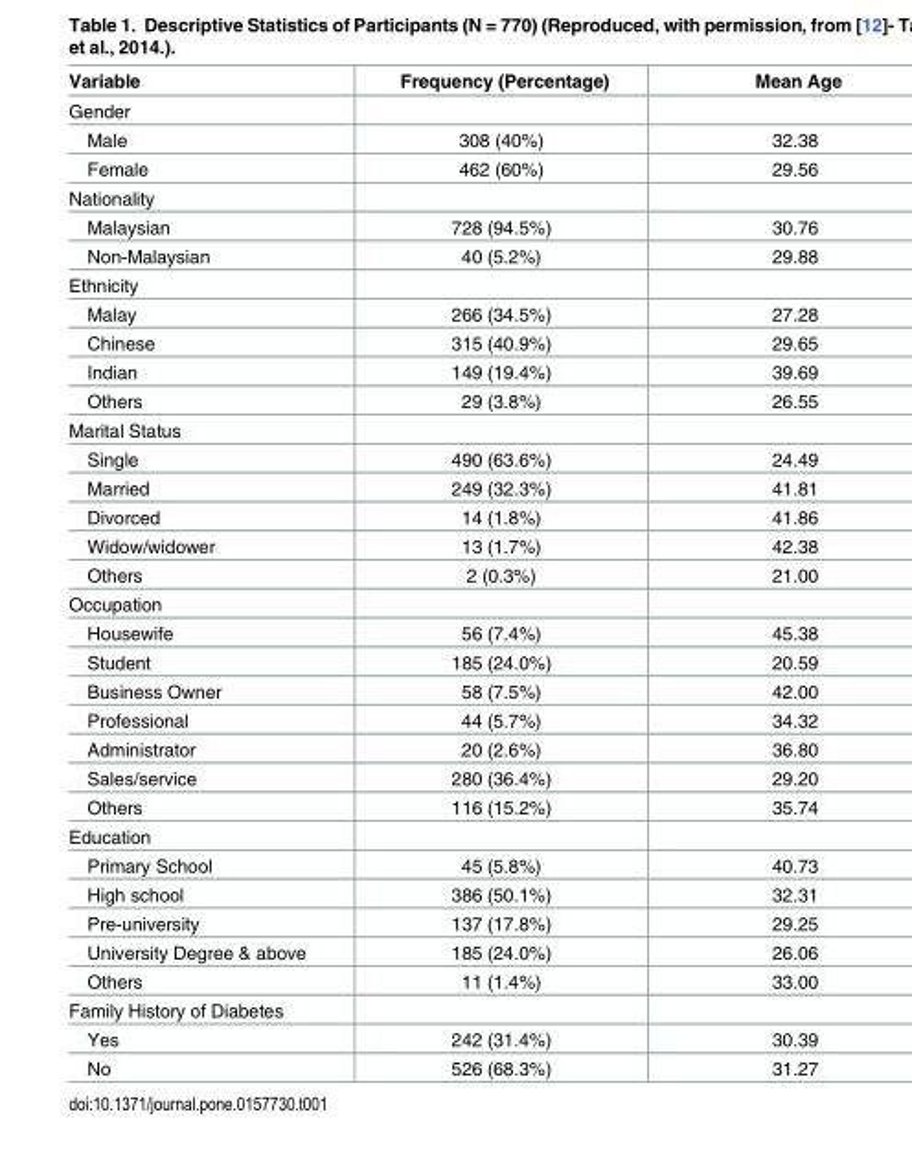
<table><thead><tr><td>Variable</td><td>Frequency (Percentage)</td><td>Mean Age</td></tr></thead><tbody><tr><td colspan="3">Gender</td></tr><tr><td>Male</td><td>308 (40%)</td><td>32.38</td></tr><tr><td>Female</td><td>462 (60%)</td><td>29.56</td></tr><tr><td colspan="3">Nationality</td></tr><tr><td>Malaysian</td><td>728 (94.5%)</td><td>30.76</td></tr><tr><td>Non-Malaysian</td><td>40 (5.2%)</td><td>29.88</td></tr><tr><td colspan="3">Ethnicity</td></tr><tr><td>Malay</td><td>266 (34.5%)</td><td>27.28</td></tr><tr><td>Chinese</td><td>315 (40.9%)</td><td>29.65</td></tr><tr><td>Indian</td><td>149 (19.4%)</td><td>39.69</td></tr><tr><td>Others</td><td>29 (3.8%)</td><td>26.55</td></tr><tr><td colspan="3">Marital Status</td></tr><tr><td>Single</td><td>490 (63.6%)</td><td>24.49</td></tr><tr><td>Married</td><td>249 (32.3%)</td><td>41.81</td></tr><tr><td>Divorced</td><td>14 (1.8%)</td><td>41.86</td></tr><tr><td>Widow/widower</td><td>13 (1.7%)</td><td>42.38</td></tr><tr><td>Others</td><td>2 (0.3%)</td><td>21.00</td></tr><tr><td colspan="3">Occupation</td></tr><tr><td>Housewife</td><td>56 (7.4%)</td><td>45.38</td></tr><tr><td>Student</td><td>185 (24.0%)</td><td>20.59</td></tr><tr><td>Business Owner</td><td>58 (7.5%)</td><td>42.00</td></tr><tr><td>Professional</td><td>44 (5.7%)</td><td>34.32</td></tr><tr><td>Administrator</td><td>20 (2.6%)</td><td>36.80</td></tr><tr><td>Sales/service</td><td>280 (36.4%)</td><td>29.20</td></tr><tr><td>Others</td><td>116 (15.2%)</td><td>35.74</td></tr><tr><td colspan="3">Education</td></tr><tr><td>Primary School</td><td>45 (5.8%)</td><td>40.73</td></tr><tr><td>High school</td><td>386 (50.1%)</td><td>32.31</td></tr><tr><td>Pre-university</td><td>137 (17.8%)</td><td>29.25</td></tr><tr><td>University Degree &amp; above</td><td>185 (24.0%)</td><td>26.06</td></tr><tr><td>Others</td><td>11 (1.4%)</td><td>33.00</td></tr><tr><td colspan="3">Family History of Diabetes</td></tr><tr><td>Yes</td><td>242 (31.4%)</td><td>30.39</td></tr><tr><td>No</td><td>526 (68.3%)</td><td>31.27</td></tr></tbody></table>